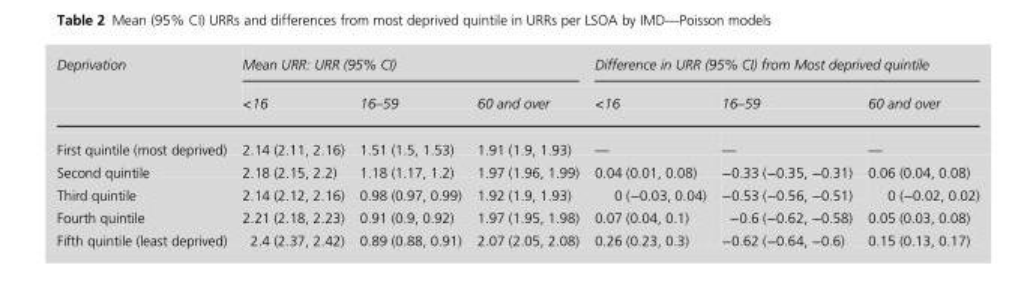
<table><thead><tr><td rowspan="2">Deprivation</td><td colspan="3">Mean URR: URR (95% CI)</td><td colspan="3">Difference in URR (95% CI) from Most deprived quintile</td></tr><tr><td>&lt;16</td><td>16–59</td><td>60 and over</td><td>&lt;16</td><td>16–59</td><td>60 and over</td></tr></thead><tbody><tr><td>First quintile (most deprived)</td><td>2.14 (2.11, 2.16)</td><td>1.51 (1.5, 1.53)</td><td>1.91 (1.9, 1.93)</td><td>—</td><td>—</td><td>—</td></tr><tr><td>Second quintile</td><td>2.18 (2.15, 2.2)</td><td>1.18 (1.17, 1.2)</td><td>1.97 (1.96, 1.99)</td><td>0.04 (0.01, 0.08)</td><td>−0.33 (−0.35, −0.31)</td><td>0.06 (0.04, 0.08)</td></tr><tr><td>Third quintile</td><td>2.14 (2.12, 2.16)</td><td>0.98 (0.97, 0.99)</td><td>1.92 (1.9, 1.93)</td><td>0 (−0.03, 0.04)</td><td>−0.53 (−0.56, −0.51)</td><td>0 (−0.02, 0.02)</td></tr><tr><td>Fourth quintile</td><td>2.21 (2.18, 2.23)</td><td>0.91 (0.9, 0.92)</td><td>1.97 (1.95, 1.98)</td><td>0.07 (0.04, 0.1)</td><td>−0.6 (−0.62, −0.58)</td><td>0.05 (0.03, 0.08)</td></tr><tr><td>Fifth quintile (least deprived)</td><td>2.4 (2.37, 2.42)</td><td>0.89 (0.88, 0.91)</td><td>2.07 (2.05, 2.08)</td><td>0.26 (0.23, 0.3)</td><td>−0.62 (−0.64, −0.6)</td><td>0.15 (0.13, 0.17)</td></tr></tbody></table>